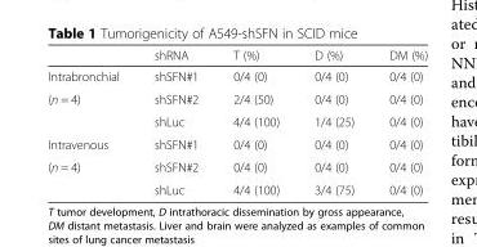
<table><thead><tr><td></td><td>shRNA</td><td>T (%)</td><td>D (%)</td><td>DM (%)</td></tr></thead><tbody><tr><td>Intrabronchial</td><td>shSFN#1</td><td>0/4 (0)</td><td>0/4 (0)</td><td>0/4 (0)</td></tr><tr><td rowspan="2">(n = 4)</td><td>shSFN#2</td><td>2/4 (50)</td><td>0/4 (0)</td><td>0/4 (0)</td></tr><tr><td>shLuc</td><td>4/4 (100)</td><td>1/4 (25)</td><td>0/4 (0)</td></tr><tr><td>Intravenous</td><td>shSFN#1</td><td>0/4 (0)</td><td>0/4 (0)</td><td>0/4 (0)</td></tr><tr><td rowspan="2">(n = 4)</td><td>shSFN#2</td><td>0/4 (0)</td><td>0/4 (0)</td><td>0/4 (0)</td></tr><tr><td>shLuc</td><td>4/4 (100)</td><td>3/4 (75)</td><td>0/4 (0)</td></tr></tbody></table>